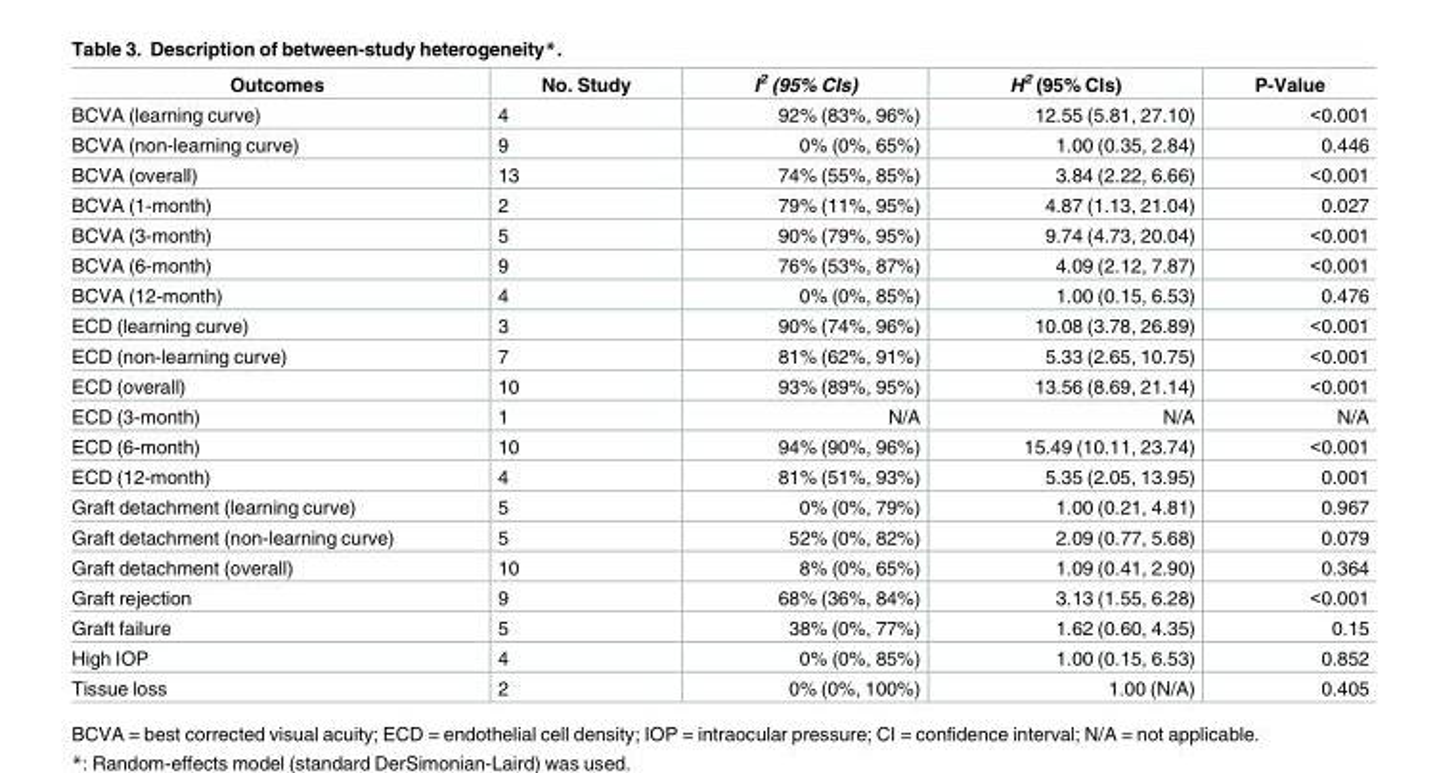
<table><thead><tr><td>Outcomes</td><td>No. Study</td><td>I<sup>2</sup> (95% CIs)</td><td>H<sup>2</sup> (95% CIs)</td><td>P-Value</td></tr></thead><tbody><tr><td>BCVA (learning curve)</td><td>4</td><td>92% (83%, 96%)</td><td>12.55 (5.81, 27.10)</td><td>&lt;0.001</td></tr><tr><td>BCVA (non-learning curve)</td><td>9</td><td>0% (0%, 65%)</td><td>1.00 (0.35, 2.84)</td><td>0.446</td></tr><tr><td>BCVA (overall)</td><td>13</td><td>74% (55%, 85%)</td><td>3.84 (2.22, 6.66)</td><td>&lt;0.001</td></tr><tr><td>BCVA (1-month)</td><td>2</td><td>79% (11%, 95%)</td><td>4.87 (1.13, 21.04)</td><td>0.027</td></tr><tr><td>BCVA (3-month)</td><td>5</td><td>90% (79%, 95%)</td><td>9.74 (4.73, 20.04)</td><td>&lt;0.001</td></tr><tr><td>BCVA (6-month)</td><td>9</td><td>76% (53%, 87%)</td><td>4.09 (2.12, 7.87)</td><td>&lt;0.001</td></tr><tr><td>BCVA (12-month)</td><td>4</td><td>0% (0%, 85%)</td><td>1.00 (0.15, 6.53)</td><td>0.476</td></tr><tr><td>ECD (learning curve)</td><td>3</td><td>90% (74%, 96%)</td><td>10.08 (3.78, 26.89)</td><td>&lt;0.001</td></tr><tr><td>ECD (non-learning curve)</td><td>7</td><td>81% (62%, 91%)</td><td>5.33 (2.65, 10.75)</td><td>&lt;0.001</td></tr><tr><td>ECD (overall)</td><td>10</td><td>93% (89%, 95%)</td><td>13.56 (8.69, 21.14)</td><td>&lt;0.001</td></tr><tr><td>ECD (3-month)</td><td>1</td><td>N/A</td><td>N/A</td><td>N/A</td></tr><tr><td>ECD (6-month)</td><td>10</td><td>94% (90%, 96%)</td><td>15.49 (10.11, 23.74)</td><td>&lt;0.001</td></tr><tr><td>ECD (12-month)</td><td>4</td><td>81% (51%, 93%)</td><td>5.35 (2.05, 13.95)</td><td>0.001</td></tr><tr><td>Graft detachment (learning curve)</td><td>5</td><td>0% (0%, 79%)</td><td>1.00 (0.21, 4.81)</td><td>0.967</td></tr><tr><td>Graft detachment (non-learning curve)</td><td>5</td><td>52% (0%, 82%)</td><td>2.09 (0.77, 5.68)</td><td>0.079</td></tr><tr><td>Graft detachment (overall)</td><td>10</td><td>8% (0%, 65%)</td><td>1.09 (0.41, 2.90)</td><td>0.364</td></tr><tr><td>Graft rejection</td><td>9</td><td>68% (36%, 84%)</td><td>3.13 (1.55, 6.28)</td><td>&lt;0.001</td></tr><tr><td>Graft failure</td><td>5</td><td>38% (0%, 77%)</td><td>1.62 (0.60, 4.35)</td><td>0.15</td></tr><tr><td>High IOP</td><td>4</td><td>0% (0%, 85%)</td><td>1.00 (0.15, 6.53)</td><td>0.852</td></tr><tr><td>Tissue loss</td><td>2</td><td>0% (0%, 100%)</td><td>1.00 (N/A)</td><td>0.405</td></tr></tbody></table>